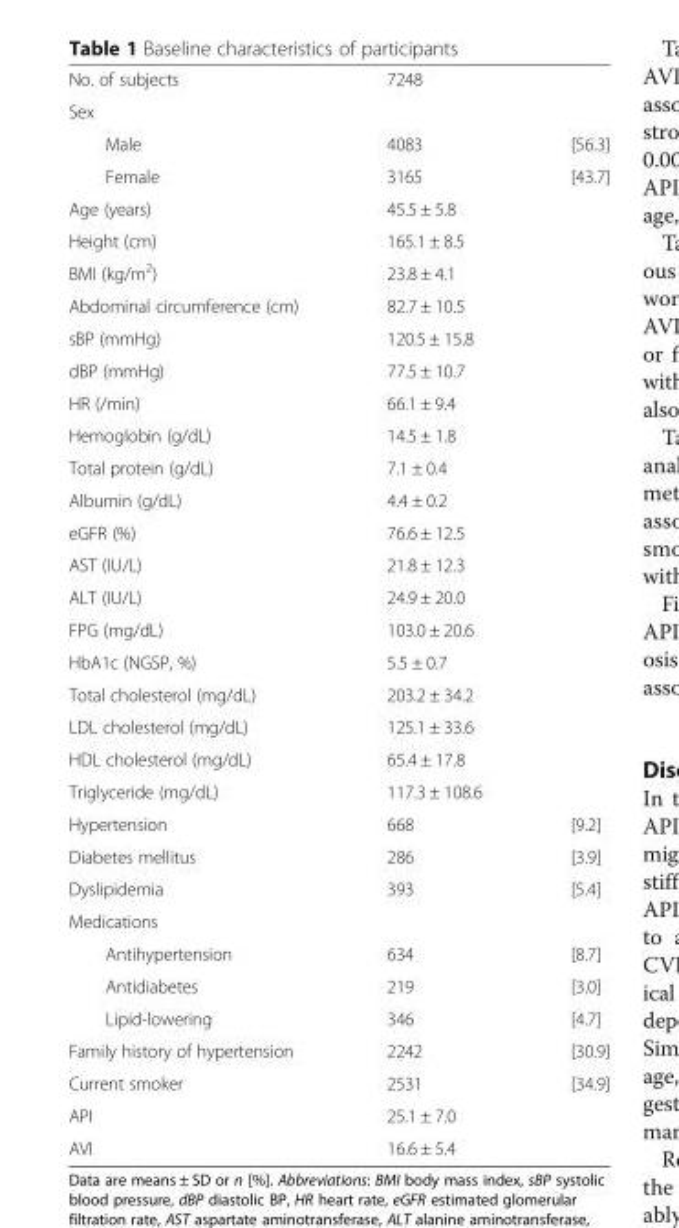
<table><tbody><tr><td>No. of subjects</td><td>7248</td><td></td></tr><tr><td colspan="3">Sex</td></tr><tr><td>Male</td><td>4083</td><td>[56.3]</td></tr><tr><td>Female</td><td>3165</td><td>[43.7]</td></tr><tr><td>Age (years)</td><td>45.5 ± 5.8</td><td></td></tr><tr><td>Height (cm)</td><td>165.1 ± 8.5</td><td></td></tr><tr><td>BMI (kg/m<sup>2</sup>)</td><td>23.8 ± 4.1</td><td></td></tr><tr><td>Abdominal circumference (cm)</td><td>82.7 ± 10.5</td><td></td></tr><tr><td>sBP (mmHg)</td><td>120.5 ± 15.8</td><td></td></tr><tr><td>dBP (mmHg)</td><td>77.5 ± 10.7</td><td></td></tr><tr><td>HR (/min)</td><td>66.1 ± 9.4</td><td></td></tr><tr><td>Hemoglobin (g/dL)</td><td>14.5 ± 1.8</td><td></td></tr><tr><td>Total protein (g/dL)</td><td>7.1 ± 0.4</td><td></td></tr><tr><td>Albumin (g/dL)</td><td>4.4 ± 0.2</td><td></td></tr><tr><td>eGFR (%)</td><td>76.6 ± 12.5</td><td></td></tr><tr><td>AST (IU/L)</td><td>21.8 ± 12.3</td><td></td></tr><tr><td>ALT (IU/L)</td><td>24.9 ± 20.0</td><td></td></tr><tr><td>FPG (mg/dL)</td><td>103.0 ± 20.6</td><td></td></tr><tr><td>HbA1c (NGSP, %)</td><td>5.5 ± 0.7</td><td></td></tr><tr><td>Total cholesterol (mg/dL)</td><td>203.2 ± 34.2</td><td></td></tr><tr><td>LDL cholesterol (mg/dL)</td><td>125.1 ± 33.6</td><td></td></tr><tr><td>HDL cholesterol (mg/dL)</td><td>65.4 ± 17.8</td><td></td></tr><tr><td>Triglyceride (mg/dL)</td><td>117.3 ± 108.6</td><td></td></tr><tr><td>Hypertension</td><td>668</td><td>[9.2]</td></tr><tr><td>Diabetes mellitus</td><td>286</td><td>[3.9]</td></tr><tr><td>Dyslipidemia</td><td>393</td><td>[5.4]</td></tr><tr><td colspan="3">Medications</td></tr><tr><td>Antihypertension</td><td>634</td><td>[8.7]</td></tr><tr><td>Antidiabetes</td><td>219</td><td>[3.0]</td></tr><tr><td>Lipid-lowering</td><td>346</td><td>[4.7]</td></tr><tr><td>Family history of hypertension</td><td>2242</td><td>[30.9]</td></tr><tr><td>Current smoker</td><td>2531</td><td>[34.9]</td></tr><tr><td>API</td><td>25.1 ± 7.0</td><td></td></tr><tr><td>AVI</td><td>16.6 ± 5.4</td><td></td></tr></tbody></table>